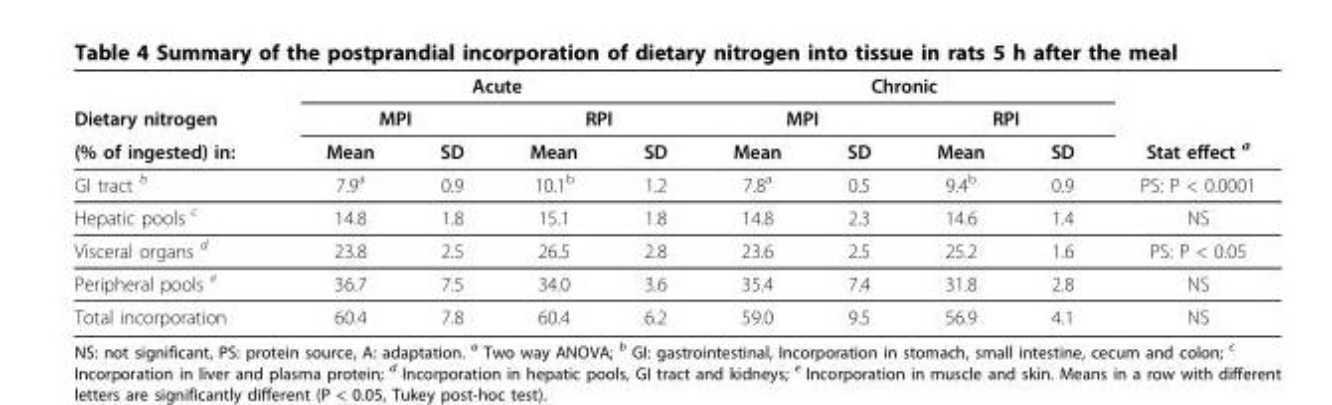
<table><thead><tr><td rowspan="3">Dietary nitrogen (% of ingested) in:</td><td colspan="4">Acute</td><td colspan="4">Chronic</td><td rowspan="3">Stat effect <sup>a</sup></td></tr><tr><td colspan="2">MPI</td><td colspan="2">RPI</td><td colspan="2">MPI</td><td colspan="2">RPI</td></tr><tr><td>Mean</td><td>SD</td><td>Mean</td><td>SD</td><td>Mean</td><td>SD</td><td>Mean</td><td>SD</td></tr></thead><tbody><tr><td>GI tract <sup>b</sup></td><td>7.9<sup>a</sup></td><td>0.9</td><td>10.1<sup>b</sup></td><td>1.2</td><td>7.8<sup>a</sup></td><td>0.5</td><td>9.4<sup>b</sup></td><td>0.9</td><td>PS: P &lt; 0.0001</td></tr><tr><td>Hepatic pools <sup>c</sup></td><td>14.8</td><td>1.8</td><td>15.1</td><td>1.8</td><td>14.8</td><td>2.3</td><td>14.6</td><td>1.4</td><td>NS</td></tr><tr><td>Visceral organs <sup>d</sup></td><td>23.8</td><td>2.5</td><td>26.5</td><td>2.8</td><td>23.6</td><td>2.5</td><td>25.2</td><td>1.6</td><td>PS: P &lt; 0.05</td></tr><tr><td>Peripheral pools <sup>e</sup></td><td>36.7</td><td>7.5</td><td>34.0</td><td>3.6</td><td>35.4</td><td>7.4</td><td>31.8</td><td>2.8</td><td>NS</td></tr><tr><td>Total incorporation</td><td>60.4</td><td>7.8</td><td>60.4</td><td>6.2</td><td>59.0</td><td>9.5</td><td>56.9</td><td>4.1</td><td>NS</td></tr></tbody></table>